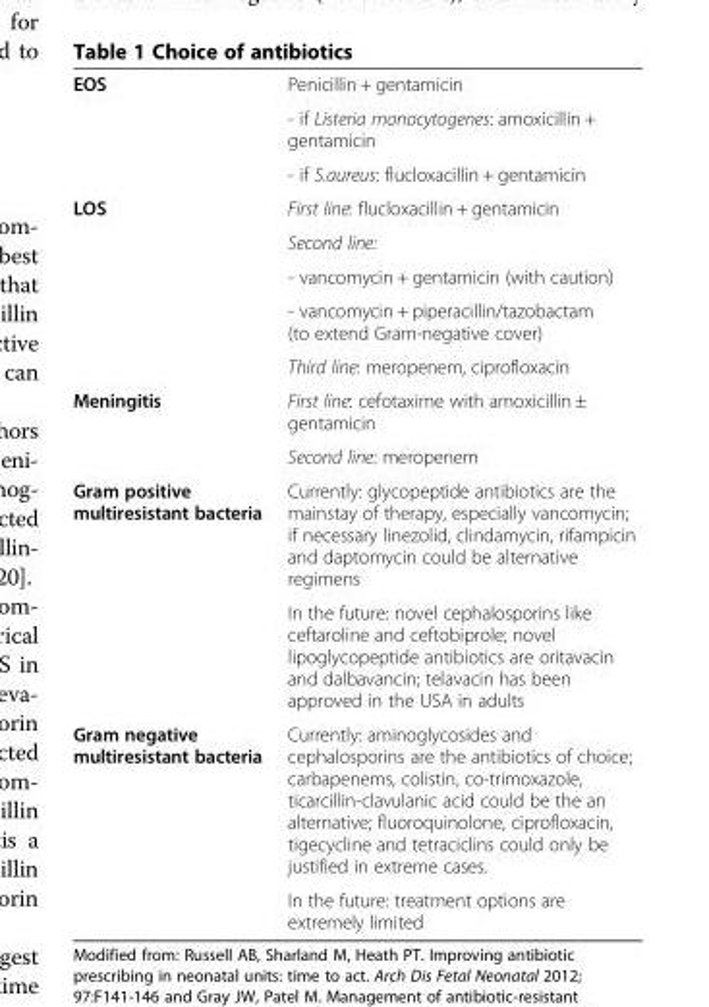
<table><tbody><tr><td rowspan="3">EOS</td><td>Penicillin + gentamicin</td></tr><tr><td>- if Listeria monocytogenes: amoxicillin + gentamicin</td></tr><tr><td>- if S.aureus: flucloxacillin + gentamicin</td></tr><tr><td rowspan="5">LOS</td><td>First line: flucloxacillin + gentamicin</td></tr><tr><td>Second line:</td></tr><tr><td>- vancomycin + gentamicin (with caution)</td></tr><tr><td>- vancomycin + piperacillin/tazobactam (to extend Gram-negative cover)</td></tr><tr><td>Third line: meropenem, ciprofloxacin</td></tr><tr><td rowspan="2">Meningitis</td><td>First line: cefotaxime with amoxicillin ± gentamicin</td></tr><tr><td>Second line: meropenem</td></tr><tr><td rowspan="2">Gram positive multiresistant bacteria</td><td>Currently: glycopeptide antibiotics are the mainstay of therapy, especially vancomycin; if necessary linezolid, clindamycin, rifampicin and daptomycin could be alternative regimens</td></tr><tr><td>In the future: novel cephalosporins like ceftaroline and ceftobiprole; novel lipoglycopeptide antibiotics are oritavacin and dalbavancin; telavacin has been approved in the USA in adults</td></tr><tr><td rowspan="2">Gram negative multiresistant bacteria</td><td>Currently: aminoglycosides and cephalosporins are the antibiotics of choice; carbapenems, colistin, co-trimoxazole, ticarcillin-clavulanic acid could be the an alternative; fluoroquinolone, ciprofloxacin, tigecycline and tetraciclins could only be justified in extreme cases.</td></tr><tr><td>In the future: treatment options are extremely limited</td></tr></tbody></table>